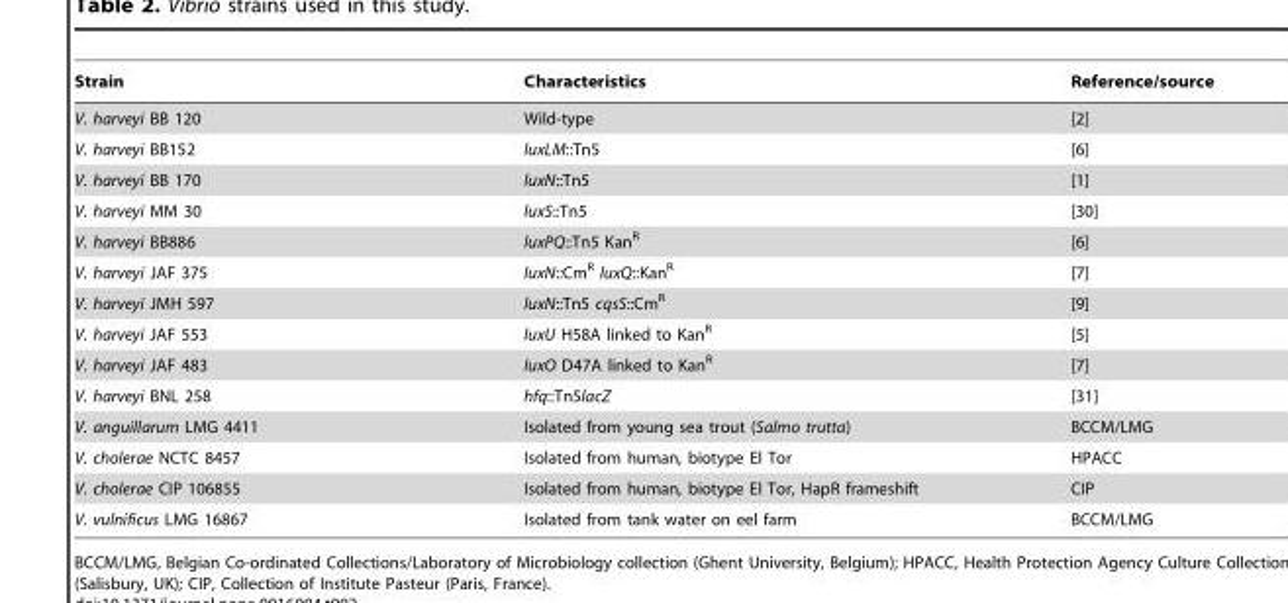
<table><thead><tr><td>Strain</td><td>Characteristics</td><td>Reference/source</td></tr></thead><tbody><tr><td>V. harveyi BB 120</td><td>Wild-type</td><td>[2]</td></tr><tr><td>V. harveyi BB152</td><td>luxLM::Tn5</td><td>[6]</td></tr><tr><td>V. harveyi BB 170</td><td>luxN::Tn5</td><td>[1]</td></tr><tr><td>V. harveyi MM 30</td><td>luxS::Tn5</td><td>[30]</td></tr><tr><td>V. harveyi BB886</td><td>luxPQ::Tn5 Kan<sup>R</sup></td><td>[6]</td></tr><tr><td>V. harveyi JAF 375</td><td>luxN::Cm<sup>R</sup> luxQ::Kan<sup>R</sup></td><td>[7]</td></tr><tr><td>V. harveyi JMH 597</td><td>luxN::Tn5 cqsS::Cm<sup>R</sup></td><td>[9]</td></tr><tr><td>V. harveyi JAF 553</td><td>luxU H58A linked to Kan<sup>R</sup></td><td>[5]</td></tr><tr><td>V. harveyi JAF 483</td><td>luxO D47A linked to Kan<sup>R</sup></td><td>[7]</td></tr><tr><td>V. harveyi BNL 258</td><td>hfq::Tn5lacZ</td><td>[31]</td></tr><tr><td>V. anguillarum LMG 4411</td><td>Isolated from young sea trout (Salmo trutta)</td><td>BCCM/LMG</td></tr><tr><td>V. cholerae NCTC 8457</td><td>Isolated from human, biotype El Tor</td><td>HPACC</td></tr><tr><td>V. cholerae CIP 106855</td><td>Isolated from human, biotype El Tor, HapR frameshift</td><td>CIP</td></tr><tr><td>V. vulnificus LMG 16867</td><td>Isolated from tank water on eel farm</td><td>BCCM/LMG</td></tr></tbody></table>